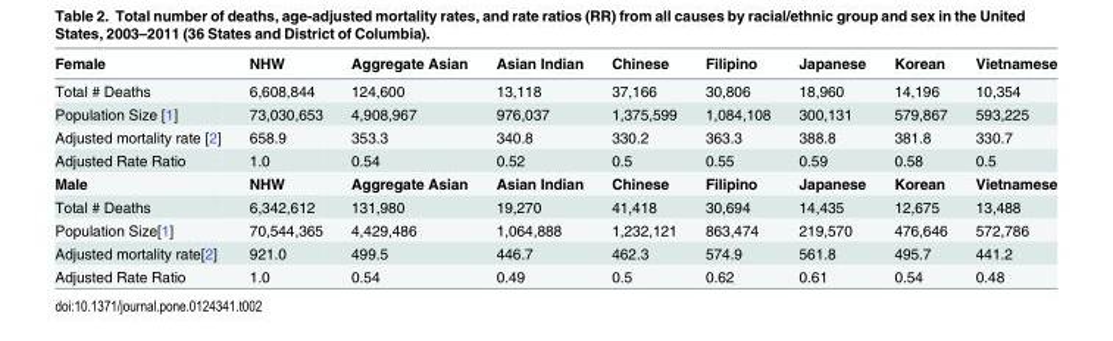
<table><thead><tr><td>Female</td><td>NHW</td><td>Aggregate Asian</td><td>Asian Indian</td><td>Chinese</td><td>Filipino</td><td>Japanese</td><td>Korean</td><td>Vietnamese</td></tr></thead><tbody><tr><td>Total # Deaths</td><td>6,608,844</td><td>124,600</td><td>13,118</td><td>37,166</td><td>30,806</td><td>18,960</td><td>14,196</td><td>10,354</td></tr><tr><td>Population Size [1]</td><td>73,030,653</td><td>4,908,967</td><td>976,037</td><td>1,375,599</td><td>1,084,108</td><td>300,131</td><td>579,867</td><td>593,225</td></tr><tr><td>Adjusted mortality rate [2]</td><td>658.9</td><td>353.3</td><td>340.8</td><td>330.2</td><td>363.3</td><td>388.8</td><td>381.8</td><td>330.7</td></tr><tr><td>Adjusted Rate Ratio</td><td>1.0</td><td>0.54</td><td>0.52</td><td>0.5</td><td>0.55</td><td>0.59</td><td>0.58</td><td>0.5</td></tr><tr><td>Male</td><td>NHW</td><td>Aggregate Asian</td><td>Asian Indian</td><td>Chinese</td><td>Filipino</td><td>Japanese</td><td>Korean</td><td>Vietnamese</td></tr><tr><td>Total # Deaths</td><td>6,342,612</td><td>131,980</td><td>19,270</td><td>41,418</td><td>30,694</td><td>14,435</td><td>12,675</td><td>13,488</td></tr><tr><td>Population Size[1]</td><td>70,544,365</td><td>4,429,486</td><td>1,064,888</td><td>1,232,121</td><td>863,474</td><td>219,570</td><td>476,646</td><td>572,786</td></tr><tr><td>Adjusted mortality rate[2]</td><td>921.0</td><td>499.5</td><td>446.7</td><td>462.3</td><td>574.9</td><td>561.8</td><td>495.7</td><td>441.2</td></tr><tr><td>Adjusted Rate Ratio</td><td>1.0</td><td>0.54</td><td>0.49</td><td>0.5</td><td>0.62</td><td>0.61</td><td>0.54</td><td>0.48</td></tr></tbody></table>